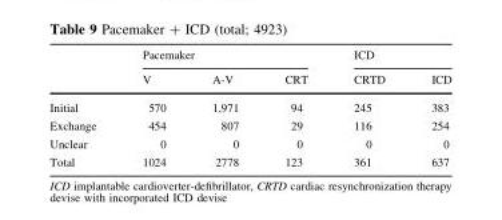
<table><thead><tr><td rowspan="2"></td><td colspan="3">Pacemaker</td><td colspan="2">ICD</td></tr><tr><td>V</td><td>A-V</td><td>CRT</td><td>CRTD</td><td>ICD</td></tr></thead><tbody><tr><td>Initial</td><td>570</td><td>1,971</td><td>94</td><td>245</td><td>383</td></tr><tr><td>Exchange</td><td>454</td><td>807</td><td>29</td><td>116</td><td>254</td></tr><tr><td>Unclear</td><td>0</td><td>0</td><td>0</td><td>0</td><td>0</td></tr><tr><td>Total</td><td>1024</td><td>2778</td><td>123</td><td>361</td><td>637</td></tr></tbody></table>